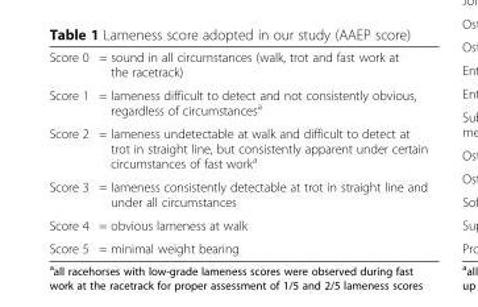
<table><tbody><tr><td>Score 0</td><td>= sound in all circumstances (walk, trot and fast work at the racetrack)</td></tr><tr><td>Score 1</td><td>= lameness difficult to detect and not consistently obvious, regardless of circumstances<sup>a</sup></td></tr><tr><td>Score 2</td><td>= lameness undetectable at walk and difficult to detect at trot in straight line, but consistently apparent under certain circumstances of fast work<sup>a</sup></td></tr><tr><td>Score 3</td><td>= lameness consistently detectable at trot in straight line and under all circumstances</td></tr><tr><td>Score 4</td><td>= obvious lameness at walk</td></tr><tr><td>Score 5</td><td>= minimal weight bearing</td></tr></tbody></table>